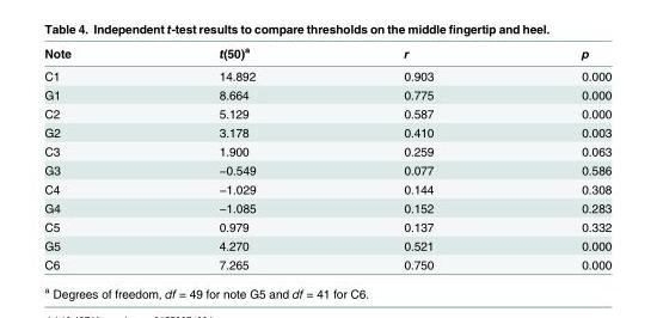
<table><thead><tr><td>Note</td><td>t(50)<sup>a</sup></td><td>r</td><td>p</td></tr></thead><tbody><tr><td>C1</td><td>14.892</td><td>0.903</td><td>0.000</td></tr><tr><td>G1</td><td>8.664</td><td>0.775</td><td>0.000</td></tr><tr><td>C2</td><td>5.129</td><td>0.587</td><td>0.000</td></tr><tr><td>G2</td><td>3.178</td><td>0.410</td><td>0.003</td></tr><tr><td>C3</td><td>1.900</td><td>0.259</td><td>0.063</td></tr><tr><td>G3</td><td>−0.549</td><td>0.077</td><td>0.586</td></tr><tr><td>C4</td><td>−1.029</td><td>0.144</td><td>0.308</td></tr><tr><td>G4</td><td>−1.085</td><td>0.152</td><td>0.283</td></tr><tr><td>C5</td><td>0.979</td><td>0.137</td><td>0.332</td></tr><tr><td>G5</td><td>4.270</td><td>0.521</td><td>0.000</td></tr><tr><td>C6</td><td>7.265</td><td>0.750</td><td>0.000</td></tr></tbody></table>